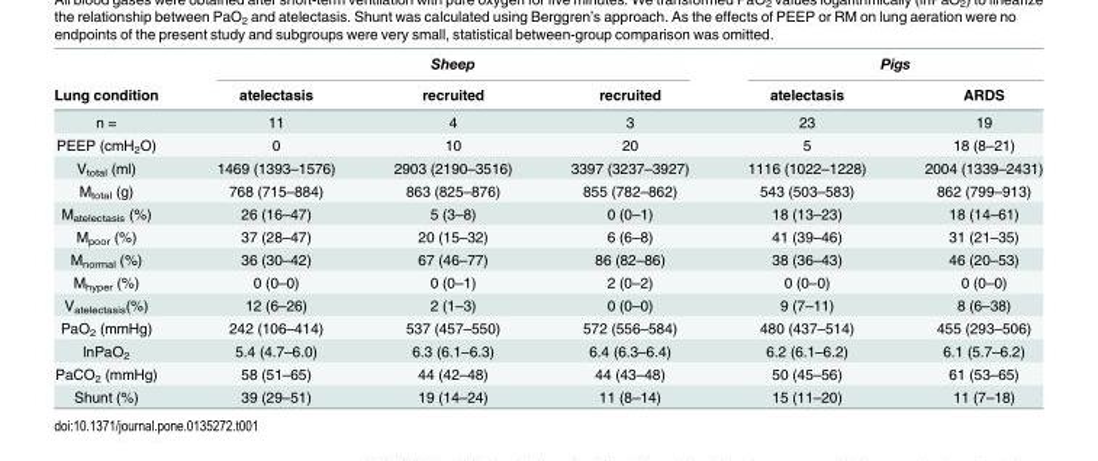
<table><thead><tr><td rowspan="2">Lung condition</td><td colspan="3">Sheep</td><td colspan="2">Pigs</td></tr><tr><td>atelectasis</td><td>recruited</td><td>recruited</td><td>atelectasis</td><td>ARDS</td></tr></thead><tbody><tr><td>n =</td><td>11</td><td>4</td><td>3</td><td>23</td><td>19</td></tr><tr><td>PEEP (cmH<sub>2</sub>O)</td><td>0</td><td>10</td><td>20</td><td>5</td><td>18 (8–21)</td></tr><tr><td>V<sub>total</sub> (ml)</td><td>1469 (1393–1576)</td><td>2903 (2190–3516)</td><td>3397 (3237–3927)</td><td>1116 (1022–1228)</td><td>2004 (1339–2431)</td></tr><tr><td>M<sub>total</sub> (g)</td><td>768 (715–884)</td><td>863 (825–876)</td><td>855 (782–862)</td><td>543 (503–583)</td><td>862 (799–913)</td></tr><tr><td>M<sub>atelectasis</sub> (%)</td><td>26 (16–47)</td><td>5 (3–8)</td><td>0 (0–1)</td><td>18 (13–23)</td><td>18 (14–61)</td></tr><tr><td>M<sub>poor</sub> (%)</td><td>37 (28–47)</td><td>20 (15–32)</td><td>6 (6–8)</td><td>41 (39–46)</td><td>31 (21–35)</td></tr><tr><td>M<sub>normal</sub> (%)</td><td>36 (30–42)</td><td>67 (46–77)</td><td>86 (82–86)</td><td>38 (36–43)</td><td>46 (20–53)</td></tr><tr><td>M<sub>hyper</sub> (%)</td><td>0 (0–0)</td><td>0 (0–1)</td><td>2 (0–2)</td><td>0 (0–0)</td><td>0 (0–0)</td></tr><tr><td>V<sub>atelectasis</sub>(%)</td><td>12 (6–26)</td><td>2 (1–3)</td><td>0 (0–0)</td><td>9 (7–11)</td><td>8 (6–38)</td></tr><tr><td>PaO<sub>2</sub> (mmHg)</td><td>242 (106–414)</td><td>537 (457–550)</td><td>572 (556–584)</td><td>480 (437–514)</td><td>455 (293–506)</td></tr><tr><td>lnPaO<sub>2</sub></td><td>5.4 (4.7–6.0)</td><td>6.3 (6.1–6.3)</td><td>6.4 (6.3–6.4)</td><td>6.2 (6.1–6.2)</td><td>6.1 (5.7–6.2)</td></tr><tr><td>PaCO<sub>2</sub> (mmHg)</td><td>58 (51–65)</td><td>44 (42–48)</td><td>44 (43–48)</td><td>50 (45–56)</td><td>61 (53–65)</td></tr><tr><td>Shunt (%)</td><td>39 (29–51)</td><td>19 (14–24)</td><td>11 (8–14)</td><td>15 (11–20)</td><td>11 (7–18)</td></tr></tbody></table>